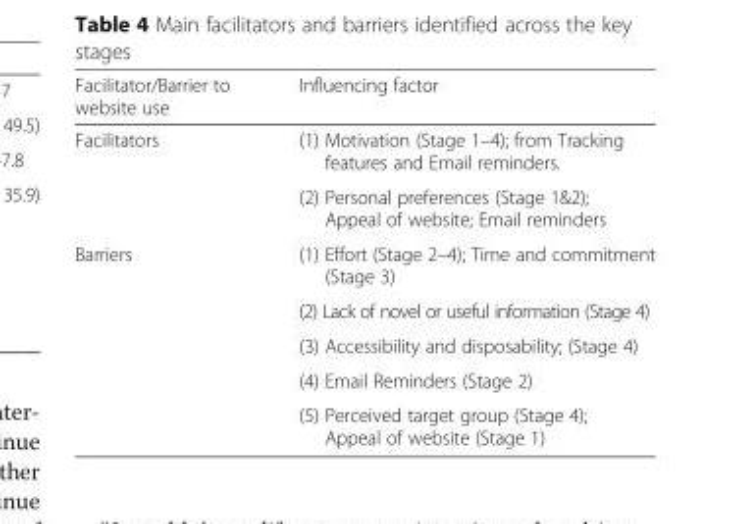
<table><thead><tr><td>Facilitator/Barrier to website use</td><td>Influencing factor</td></tr></thead><tbody><tr><td rowspan="2">Facilitators</td><td>(1) Motivation (Stage 1–4); from Tracking features and Email reminders.</td></tr><tr><td>(2) Personal preferences (Stage 1&amp;2); Appeal of website; Email reminders</td></tr><tr><td rowspan="5">Barriers</td><td>(1) Effort (Stage 2–4); Time and commitment (Stage 3)</td></tr><tr><td>(2) Lack of novel or useful information (Stage 4)</td></tr><tr><td>(3) Accessibility and disposability; (Stage 4)</td></tr><tr><td>(4) Email Reminders (Stage 2)</td></tr><tr><td>(5) Perceived target group (Stage 4); Appeal of website (Stage 1)</td></tr></tbody></table>